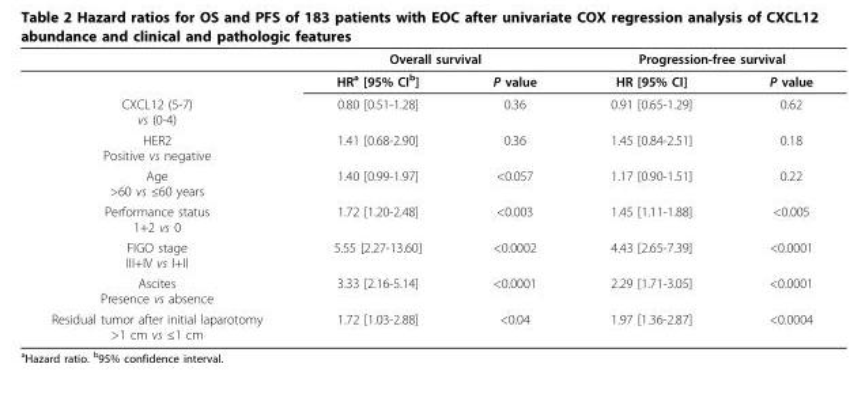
<table><thead><tr><td rowspan="2"></td><td colspan="2">Overall survival</td><td colspan="2">Progression-free survival</td></tr><tr><td>HR<sup>a</sup> [95% CI<sup>b</sup>]</td><td>P value</td><td>HR [95% CI]</td><td>P value</td></tr></thead><tbody><tr><td>CXCL12 (5-7) vs (0-4)</td><td>0.80 [0.51-1.28]</td><td>0.36</td><td>0.91 [0.65-1.29]</td><td>0.62</td></tr><tr><td>HER2 Positive vs negative</td><td>1.41 [0.68-2.90]</td><td>0.36</td><td>1.45 [0.84-2.51]</td><td>0.18</td></tr><tr><td>Age &gt;60 vs ≤60 years</td><td>1.40 [0.99-1.97]</td><td>&lt;0.057</td><td>1.17 [0.90-1.51]</td><td>0.22</td></tr><tr><td>Performance status 1+2 vs 0</td><td>1.72 [1.20-2.48]</td><td>&lt;0.003</td><td>1.45 [1.11-1.88]</td><td>&lt;0.005</td></tr><tr><td>FIGO stage III+IV vs I+II</td><td>5.55 [2.27-13.60]</td><td>&lt;0.0002</td><td>4.43 [2.65-7.39]</td><td>&lt;0.0001</td></tr><tr><td>Ascites Presence vs absence</td><td>3.33 [2.16-5.14]</td><td>&lt;0.0001</td><td>2.29 [1.71-3.05]</td><td>&lt;0.0001</td></tr><tr><td>Residual tumor after initial laparotomy &gt;1 cm vs ≤1 cm</td><td>1.72 [1.03-2.88]</td><td>&lt;0.04</td><td>1.97 [1.36-2.87]</td><td>&lt;0.0004</td></tr></tbody></table>